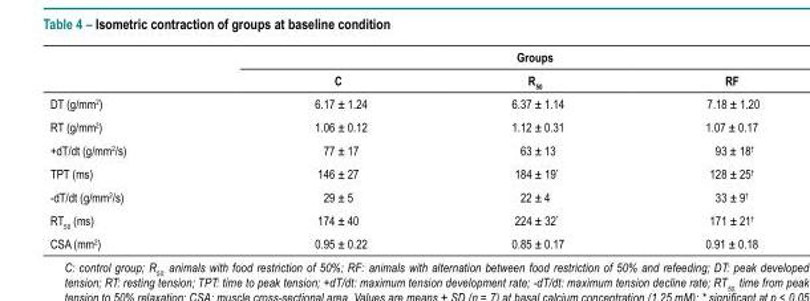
<table><thead><tr><td rowspan="2"></td><td colspan="3">Groups</td></tr><tr><td>C</td><td>R<sub>50</sub></td><td>RF</td></tr></thead><tbody><tr><td>DT (g/mm<sup>2</sup>)</td><td>6.17 ± 1.24</td><td>6.37 ± 1.14</td><td>7.18 ± 1.20</td></tr><tr><td>RT (g/mm<sup>2</sup>)</td><td>1.06 ± 0.12</td><td>1.12 ± 0.31</td><td>1.07 ± 0.17</td></tr><tr><td>+dT/dt (g/mm<sup>2</sup>/s)</td><td>77 ± 17</td><td>63 ± 13</td><td>93 ± 18<sup>†</sup></td></tr><tr><td>TPT (ms)</td><td>146 ± 27</td><td>184 ± 19*</td><td>128 ± 25<sup>†</sup></td></tr><tr><td>-dT/dt (g/mm<sup>2</sup>/s)</td><td>29 ± 5</td><td>22 ± 4</td><td>33 ± 9<sup>†</sup></td></tr><tr><td>RT<sub>50</sub> (ms)</td><td>174 ± 40</td><td>224 ± 32*</td><td>171 ± 21<sup>†</sup></td></tr><tr><td>CSA (mm<sup>2</sup>)</td><td>0.95 ± 0.22</td><td>0.85 ± 0.17</td><td>0.91 ± 0.18</td></tr></tbody></table>